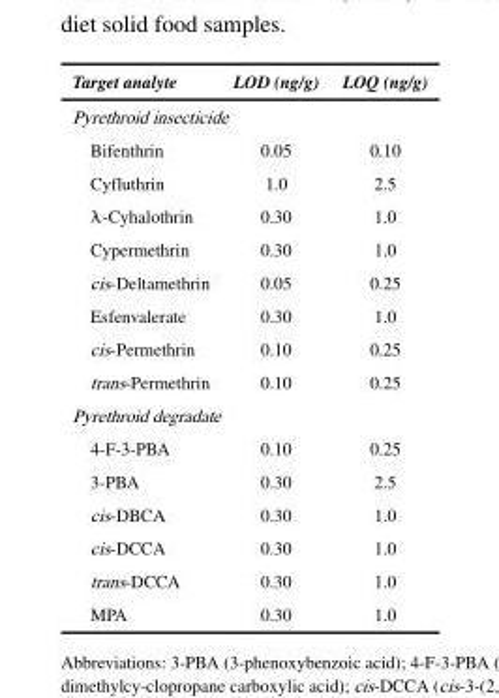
<table><thead><tr><td>Target analyte</td><td>LOD (ng/g)</td><td>LOQ (ng/g)</td></tr></thead><tbody><tr><td colspan="3">Pyrethroid insecticide</td></tr><tr><td>Bifenthrin</td><td>0.05</td><td>0.10</td></tr><tr><td>Cyfluthrin</td><td>1.0</td><td>2.5</td></tr><tr><td>λ-Cyhalothrin</td><td>0.30</td><td>1.0</td></tr><tr><td>Cypermethrin</td><td>0.30</td><td>1.0</td></tr><tr><td>cis-Deltamethrin</td><td>0.05</td><td>0.25</td></tr><tr><td>Esfenvalerate</td><td>0.30</td><td>1.0</td></tr><tr><td>cis-Permethrin</td><td>0.10</td><td>0.25</td></tr><tr><td>trans-Permethrin</td><td>0.10</td><td>0.25</td></tr><tr><td colspan="3">Pyrethroid degradate</td></tr><tr><td>4-F-3-PBA</td><td>0.10</td><td>0.25</td></tr><tr><td>3-PBA</td><td>0.30</td><td>2.5</td></tr><tr><td>cis-DBCA</td><td>0.30</td><td>1.0</td></tr><tr><td>cis-DCCA</td><td>0.30</td><td>1.0</td></tr><tr><td>trans-DCCA</td><td>0.30</td><td>1.0</td></tr><tr><td>MPA</td><td>0.30</td><td>1.0</td></tr></tbody></table>